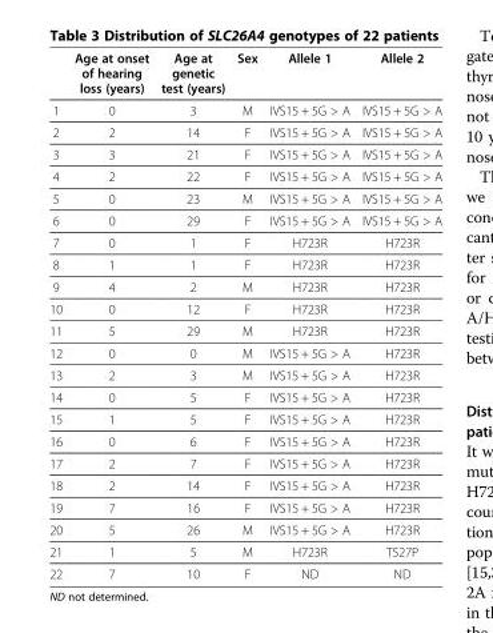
<table><thead><tr><td></td><td>Age at onset of hearing loss (years)</td><td>Age at genetic test (years)</td><td>Sex</td><td>Allele 1</td><td>Allele 2</td></tr></thead><tbody><tr><td>1</td><td>0</td><td>3</td><td>M</td><td>IVS15 + 5G &gt; A</td><td>IVS15 + 5G &gt; A</td></tr><tr><td>2</td><td>2</td><td>14</td><td>F</td><td>IVS15 + 5G &gt; A</td><td>IVS15 + 5G &gt; A</td></tr><tr><td>3</td><td>3</td><td>21</td><td>F</td><td>IVS15 + 5G &gt; A</td><td>IVS15 + 5G &gt; A</td></tr><tr><td>4</td><td>2</td><td>22</td><td>F</td><td>IVS15 + 5G &gt; A</td><td>IVS15 + 5G &gt; A</td></tr><tr><td>5</td><td>0</td><td>23</td><td>M</td><td>IVS15 + 5G &gt; A</td><td>IVS15 + 5G &gt; A</td></tr><tr><td>6</td><td>0</td><td>29</td><td>F</td><td>IVS15 + 5G &gt; A</td><td>IVS15 + 5G &gt; A</td></tr><tr><td>7</td><td>0</td><td>1</td><td>F</td><td>H723R</td><td>H723R</td></tr><tr><td>8</td><td>1</td><td>1</td><td>F</td><td>H723R</td><td>H723R</td></tr><tr><td>9</td><td>4</td><td>2</td><td>M</td><td>H723R</td><td>H723R</td></tr><tr><td>10</td><td>0</td><td>12</td><td>F</td><td>H723R</td><td>H723R</td></tr><tr><td>11</td><td>5</td><td>29</td><td>M</td><td>H723R</td><td>H723R</td></tr><tr><td>12</td><td>0</td><td>0</td><td>M</td><td>IVS15 + 5G &gt; A</td><td>H723R</td></tr><tr><td>13</td><td>2</td><td>3</td><td>M</td><td>IVS15 + 5G &gt; A</td><td>H723R</td></tr><tr><td>14</td><td>0</td><td>5</td><td>F</td><td>IVS15 + 5G &gt; A</td><td>H723R</td></tr><tr><td>15</td><td>1</td><td>5</td><td>F</td><td>IVS15 + 5G &gt; A</td><td>H723R</td></tr><tr><td>16</td><td>0</td><td>6</td><td>F</td><td>IVS15 + 5G &gt; A</td><td>H723R</td></tr><tr><td>17</td><td>2</td><td>7</td><td>F</td><td>IVS15 + 5G &gt; A</td><td>H723R</td></tr><tr><td>18</td><td>2</td><td>14</td><td>F</td><td>IVS15 + 5G &gt; A</td><td>H723R</td></tr><tr><td>19</td><td>7</td><td>16</td><td>F</td><td>IVS15 + 5G &gt; A</td><td>H723R</td></tr><tr><td>20</td><td>5</td><td>26</td><td>M</td><td>IVS15 + 5G &gt; A</td><td>H723R</td></tr><tr><td>21</td><td>1</td><td>5</td><td>M</td><td>H723R</td><td>T527P</td></tr><tr><td>22</td><td>7</td><td>10</td><td>F</td><td>ND</td><td>ND</td></tr></tbody></table>